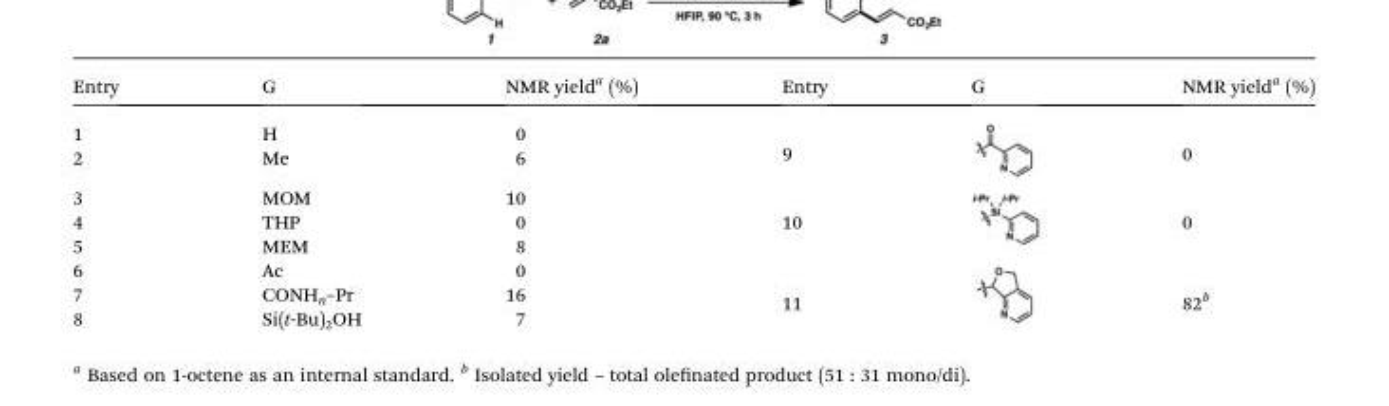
<table><thead><tr><td>Entry</td><td>G</td><td>NMR yield<sup>a</sup> (%)</td><td>Entry</td><td>G</td><td>NMR yield<sup>a</sup> (%)</td></tr></thead><tbody><tr><td>1</td><td>H</td><td>0</td><td rowspan="2">9</td><td rowspan="2"></td><td rowspan="2">0</td></tr><tr><td>2</td><td>Me</td><td>6</td></tr><tr><td>3</td><td>MOM</td><td>10</td><td rowspan="3">10</td><td rowspan="3"></td><td rowspan="3">0</td></tr><tr><td>4</td><td>THP</td><td>0</td></tr><tr><td>5</td><td>MEM</td><td>8</td></tr><tr><td>6</td><td>Ac</td><td>0</td><td rowspan="3">11</td><td rowspan="3"></td><td rowspan="3">82<sup>b</sup></td></tr><tr><td>7</td><td>CONH<sub>n</sub>–Pr</td><td>16</td></tr><tr><td>8</td><td>Si(t-Bu)<sub>2</sub>OH</td><td>7</td></tr></tbody></table>